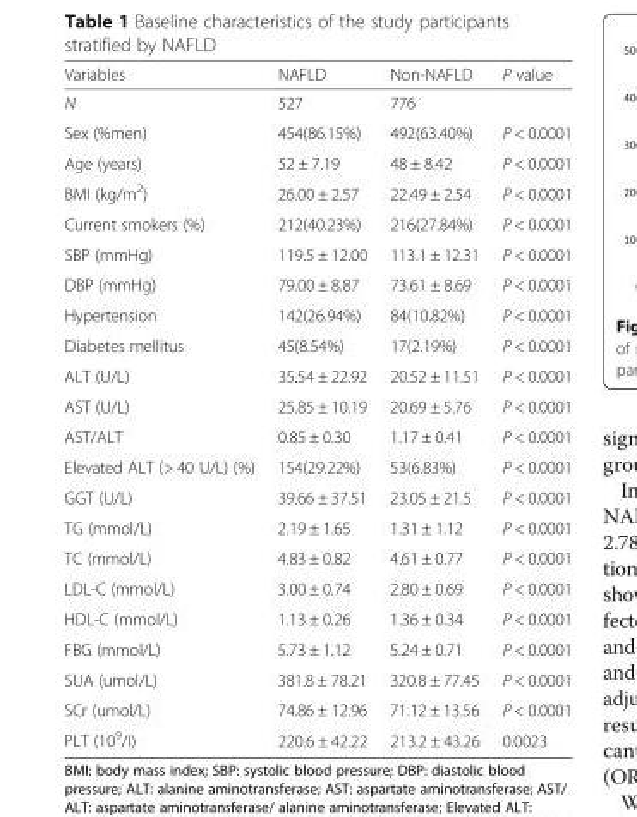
<table><thead><tr><td>Variables</td><td>NAFLD</td><td>Non-NAFLD</td><td>P value</td></tr></thead><tbody><tr><td>N</td><td>527</td><td>776</td><td></td></tr><tr><td>Sex (%men)</td><td>454(86.15%)</td><td>492(63.40%)</td><td>P &lt; 0.0001</td></tr><tr><td>Age (years)</td><td>52 ± 7.19</td><td>48 ± 8.42</td><td>P &lt; 0.0001</td></tr><tr><td>BMI (kg/m<sup>2</sup>)</td><td>26.00 ± 2.57</td><td>22.49 ± 2.54</td><td>P &lt; 0.0001</td></tr><tr><td>Current smokers (%)</td><td>212(40.23%)</td><td>216(27.84%)</td><td>P &lt; 0.0001</td></tr><tr><td>SBP (mmHg)</td><td>119.5 ± 12.00</td><td>113.1 ± 12.31</td><td>P &lt; 0.0001</td></tr><tr><td>DBP (mmHg)</td><td>79.00 ± 8.87</td><td>73.61 ± 8.69</td><td>P &lt; 0.0001</td></tr><tr><td>Hypertension</td><td>142(26.94%)</td><td>84(10.82%)</td><td>P &lt; 0.0001</td></tr><tr><td>Diabetes mellitus</td><td>45(8.54%)</td><td>17(2.19%)</td><td>P &lt; 0.0001</td></tr><tr><td>ALT (U/L)</td><td>35.54 ± 22.92</td><td>20.52 ± 11.51</td><td>P &lt; 0.0001</td></tr><tr><td>AST (U/L)</td><td>25.85 ± 10.19</td><td>20.69 ± 5.76</td><td>P &lt; 0.0001</td></tr><tr><td>AST/ALT</td><td>0.85 ± 0.30</td><td>1.17 ± 0.41</td><td>P &lt; 0.0001</td></tr><tr><td>Elevated ALT (&gt; 40 U/L) (%)</td><td>154(29.22%)</td><td>53(6.83%)</td><td>P &lt; 0.0001</td></tr><tr><td>GGT (U/L)</td><td>39.66 ± 37.51</td><td>23.05 ± 21.5</td><td>P &lt; 0.0001</td></tr><tr><td>TG (mmol/L)</td><td>2.19 ± 1.65</td><td>1.31 ± 1.12</td><td>P &lt; 0.0001</td></tr><tr><td>TC (mmol/L)</td><td>4.83 ± 0.82</td><td>4.61 ± 0.77</td><td>P &lt; 0.0001</td></tr><tr><td>LDL-C (mmol/L)</td><td>3.00 ± 0.74</td><td>2.80 ± 0.69</td><td>P &lt; 0.0001</td></tr><tr><td>HDL-C (mmol/L)</td><td>1.13 ± 0.26</td><td>1.36 ± 0.34</td><td>P &lt; 0.0001</td></tr><tr><td>FBG (mmol/L)</td><td>5.73 ± 1.12</td><td>5.24 ± 0.71</td><td>P &lt; 0.0001</td></tr><tr><td>SUA (umol/L)</td><td>381.8 ± 78.21</td><td>320.8 ± 77.45</td><td>P &lt; 0.0001</td></tr><tr><td>SCr (umol/L)</td><td>74.86 ± 12.96</td><td>71.12 ± 13.56</td><td>P &lt; 0.0001</td></tr><tr><td>PLT (10<sup>9</sup>/I)</td><td>220.6 ± 42.22</td><td>213.2 ± 43.26</td><td>0.0023</td></tr></tbody></table>